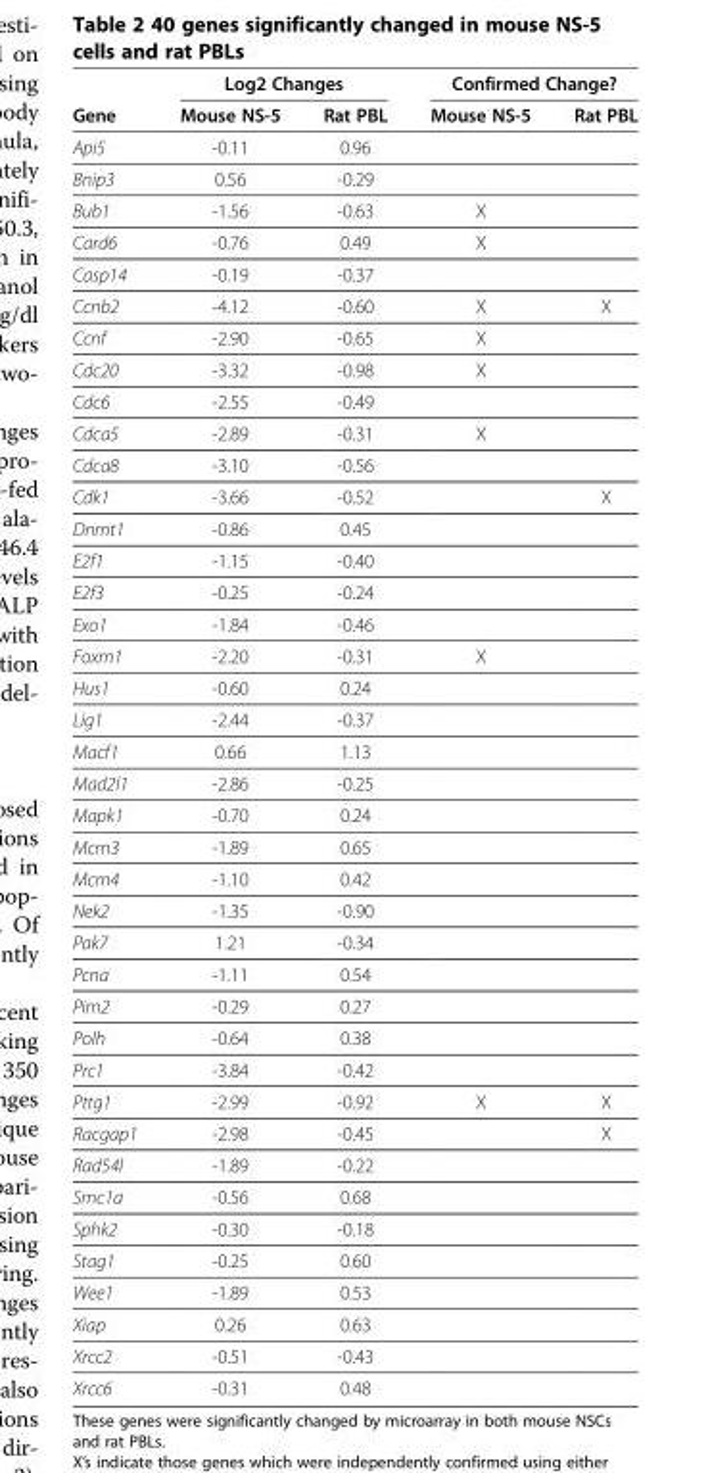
<table><thead><tr><td rowspan="2">Gene</td><td colspan="2">Log2 Changes</td><td colspan="2">Confirmed Change?</td></tr><tr><td>Mouse NS-5</td><td>Rat PBL</td><td>Mouse NS-5</td><td>Rat PBL</td></tr></thead><tbody><tr><td>Api5</td><td>-0.11</td><td>0.96</td><td></td><td></td></tr><tr><td>Bnip3</td><td>0.56</td><td>-0.29</td><td></td><td></td></tr><tr><td>Bub1</td><td>-1.56</td><td>-0.63</td><td>X</td><td></td></tr><tr><td>Card6</td><td>-0.76</td><td>0.49</td><td>X</td><td></td></tr><tr><td>Casp14</td><td>-0.19</td><td>-0.37</td><td></td><td></td></tr><tr><td>Ccnb2</td><td>-4.12</td><td>-0.60</td><td>X</td><td>X</td></tr><tr><td>Ccnf</td><td>-2.90</td><td>-0.65</td><td>X</td><td></td></tr><tr><td>Cdc20</td><td>-3.32</td><td>-0.98</td><td>X</td><td></td></tr><tr><td>Cdc6</td><td>-2.55</td><td>-0.49</td><td></td><td></td></tr><tr><td>Cdca5</td><td>-2.89</td><td>-0.31</td><td>X</td><td></td></tr><tr><td>Cdca8</td><td>-3.10</td><td>-0.56</td><td></td><td></td></tr><tr><td>Cdk1</td><td>-3.66</td><td>-0.52</td><td></td><td>X</td></tr><tr><td>Dnmt1</td><td>-0.86</td><td>0.45</td><td></td><td></td></tr><tr><td>E2f1</td><td>-1.15</td><td>-0.40</td><td></td><td></td></tr><tr><td>E2f3</td><td>-0.25</td><td>-0.24</td><td></td><td></td></tr><tr><td>Exo1</td><td>-1.84</td><td>-0.46</td><td></td><td></td></tr><tr><td>Foxm1</td><td>-2.20</td><td>-0.31</td><td>X</td><td></td></tr><tr><td>Hus1</td><td>-0.60</td><td>0.24</td><td></td><td></td></tr><tr><td>Lig1</td><td>-2.44</td><td>-0.37</td><td></td><td></td></tr><tr><td>Macf1</td><td>0.66</td><td>1.13</td><td></td><td></td></tr><tr><td>Mad2l1</td><td>-2.86</td><td>-0.25</td><td></td><td></td></tr><tr><td>Mapk1</td><td>-0.70</td><td>0.24</td><td></td><td></td></tr><tr><td>Mcm3</td><td>-1.89</td><td>0.65</td><td></td><td></td></tr><tr><td>Mcm4</td><td>-1.10</td><td>0.42</td><td></td><td></td></tr><tr><td>Nek2</td><td>-1.35</td><td>-0.90</td><td></td><td></td></tr><tr><td>Pak7</td><td>1.21</td><td>-0.34</td><td></td><td></td></tr><tr><td>Pcna</td><td>-1.11</td><td>0.54</td><td></td><td></td></tr><tr><td>Pim2</td><td>-0.29</td><td>0.27</td><td></td><td></td></tr><tr><td>Polh</td><td>-0.64</td><td>0.38</td><td></td><td></td></tr><tr><td>Prc1</td><td>-3.84</td><td>-0.42</td><td></td><td></td></tr><tr><td>Pttg1</td><td>-2.99</td><td>-0.92</td><td>X</td><td>X</td></tr><tr><td>Racgap1</td><td>-2.98</td><td>-0.45</td><td></td><td>X</td></tr><tr><td>Rad54l</td><td>-1.89</td><td>-0.22</td><td></td><td></td></tr><tr><td>Smc1a</td><td>-0.56</td><td>0.68</td><td></td><td></td></tr><tr><td>Sphk2</td><td>-0.30</td><td>-0.18</td><td></td><td></td></tr><tr><td>Stag1</td><td>-0.25</td><td>0.60</td><td></td><td></td></tr><tr><td>Wee1</td><td>-1.89</td><td>0.53</td><td></td><td></td></tr><tr><td>Xiap</td><td>0.26</td><td>0.63</td><td></td><td></td></tr><tr><td>Xrcc2</td><td>-0.51</td><td>-0.43</td><td></td><td></td></tr><tr><td>Xrcc6</td><td>-0.31</td><td>0.48</td><td></td><td></td></tr></tbody></table>